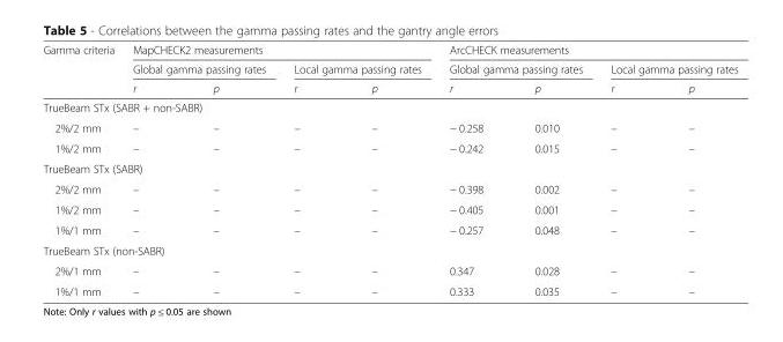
<table><thead><tr><td rowspan="3">Gamma criteria</td><td colspan="4">MapCHECK2 measurements</td><td colspan="4">ArcCHECK measurements</td></tr><tr><td colspan="2">Global gamma passing rates</td><td colspan="2">Local gamma passing rates</td><td colspan="2">Global gamma passing rates</td><td colspan="2">Local gamma passing rates</td></tr><tr><td>r</td><td>p</td><td>r</td><td>p</td><td>r</td><td>p</td><td>r</td><td>p</td></tr></thead><tbody><tr><td colspan="9">TrueBeam STx (SABR + non-SABR)</td></tr><tr><td>2%/2 mm</td><td>–</td><td>–</td><td>–</td><td>–</td><td>− 0.258</td><td>0.010</td><td>–</td><td>–</td></tr><tr><td>1%/2 mm</td><td>–</td><td>–</td><td>–</td><td>–</td><td>− 0.242</td><td>0.015</td><td>–</td><td>–</td></tr><tr><td colspan="9">TrueBeam STx (SABR)</td></tr><tr><td>2%/2 mm</td><td>–</td><td>–</td><td>–</td><td>–</td><td>− 0.398</td><td>0.002</td><td>–</td><td>–</td></tr><tr><td>1%/2 mm</td><td>–</td><td>–</td><td>–</td><td>–</td><td>− 0.405</td><td>0.001</td><td>–</td><td>–</td></tr><tr><td>1%/1 mm</td><td>–</td><td>–</td><td>–</td><td>–</td><td>− 0.257</td><td>0.048</td><td>–</td><td>–</td></tr><tr><td colspan="9">TrueBeam STx (non-SABR)</td></tr><tr><td>2%/1 mm</td><td>–</td><td>–</td><td>–</td><td>–</td><td>0.347</td><td>0.028</td><td>–</td><td>–</td></tr><tr><td>1%/1 mm</td><td>–</td><td>–</td><td>–</td><td>–</td><td>0.333</td><td>0.035</td><td>–</td><td>–</td></tr></tbody></table>